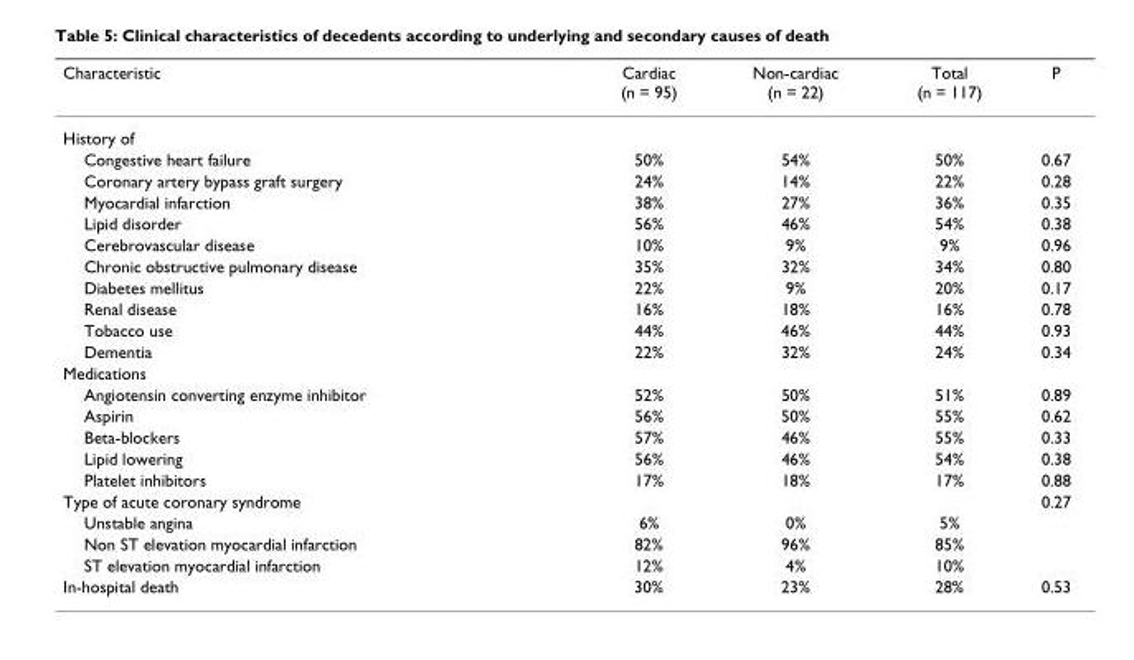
<table><thead><tr><td>Characteristic</td><td>Cardiac (n = 95)</td><td>Non-cardiac (n = 22)</td><td>Total (n = 117)</td><td>P</td></tr></thead><tbody><tr><td colspan="5">History of</td></tr><tr><td>Congestive heart failure</td><td>50%</td><td>54%</td><td>50%</td><td>0.67</td></tr><tr><td>Coronary artery bypass graft surgery</td><td>24%</td><td>14%</td><td>22%</td><td>0.28</td></tr><tr><td>Myocardial infarction</td><td>38%</td><td>27%</td><td>36%</td><td>0.35</td></tr><tr><td>Lipid disorder</td><td>56%</td><td>46%</td><td>54%</td><td>0.38</td></tr><tr><td>Cerebrovascular disease</td><td>10%</td><td>9%</td><td>9%</td><td>0.96</td></tr><tr><td>Chronic obstructive pulmonary disease</td><td>35%</td><td>32%</td><td>34%</td><td>0.80</td></tr><tr><td>Diabetes mellitus</td><td>22%</td><td>9%</td><td>20%</td><td>0.17</td></tr><tr><td>Renal disease</td><td>16%</td><td>18%</td><td>16%</td><td>0.78</td></tr><tr><td>Tobacco use</td><td>44%</td><td>46%</td><td>44%</td><td>0.93</td></tr><tr><td>Dementia</td><td>22%</td><td>32%</td><td>24%</td><td>0.34</td></tr><tr><td colspan="5">Medications</td></tr><tr><td>Angiotensin converting enzyme inhibitor</td><td>52%</td><td>50%</td><td>51%</td><td>0.89</td></tr><tr><td>Aspirin</td><td>56%</td><td>50%</td><td>55%</td><td>0.62</td></tr><tr><td>Beta-blockers</td><td>57%</td><td>46%</td><td>55%</td><td>0.33</td></tr><tr><td>Lipid lowering</td><td>56%</td><td>46%</td><td>54%</td><td>0.38</td></tr><tr><td>Platelet inhibitors</td><td>17%</td><td>18%</td><td>17%</td><td>0.88</td></tr><tr><td>Type of acute coronary syndrome</td><td></td><td></td><td></td><td>0.27</td></tr><tr><td>Unstable angina</td><td>6%</td><td>0%</td><td>5%</td><td></td></tr><tr><td>Non ST elevation myocardial infarction</td><td>82%</td><td>96%</td><td>85%</td><td></td></tr><tr><td>ST elevation myocardial infarction</td><td>12%</td><td>4%</td><td>10%</td><td></td></tr><tr><td>In-hospital death</td><td>30%</td><td>23%</td><td>28%</td><td>0.53</td></tr></tbody></table>